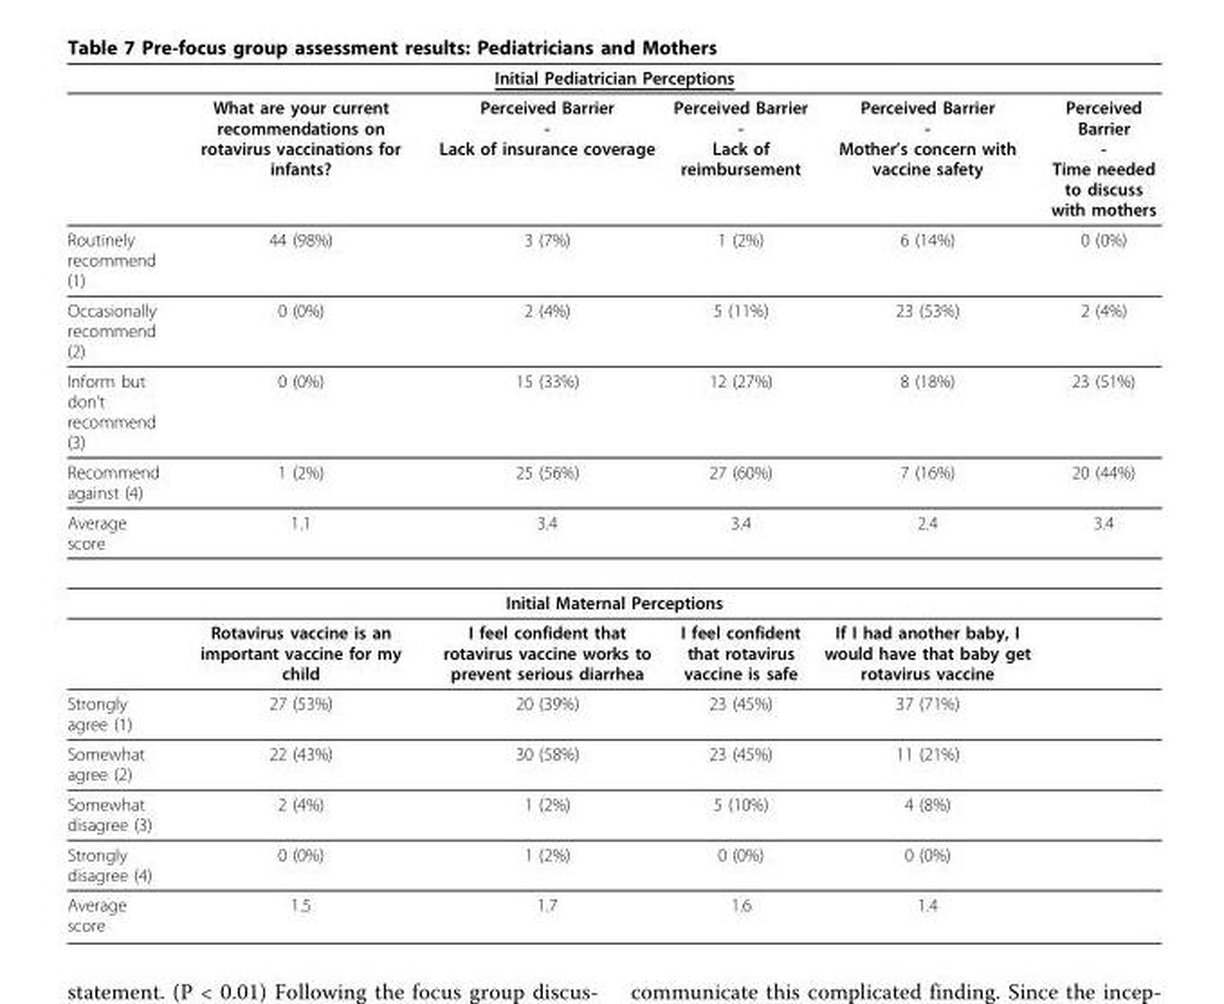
<table><thead><tr><td colspan="6">Initial Pediatrician Perceptions</td></tr><tr><td></td><td>What are your current recommendations on rotavirus vaccinations for infants?</td><td>Perceived Barrier - Lack of insurance coverage</td><td>Perceived Barrier - Lack of reimbursement</td><td>Perceived Barrier - Mother’s concern with vaccine safety</td><td>Perceived Barrier - Time needed to discuss with mothers</td></tr></thead><tbody><tr><td>Routinely recommend (1)</td><td>44 (98%)</td><td>3 (7%)</td><td>1 (2%)</td><td>6 (14%)</td><td>0 (0%)</td></tr><tr><td>Occasionally recommend (2)</td><td>0 (0%)</td><td>2 (4%)</td><td>5 (11%)</td><td>23 (53%)</td><td>2 (4%)</td></tr><tr><td>Inform but don’t recommend (3)</td><td>0 (0%)</td><td>15 (33%)</td><td>12 (27%)</td><td>8 (18%)</td><td>23 (51%)</td></tr><tr><td>Recommend against (4)</td><td>1 (2%)</td><td>25 (56%)</td><td>27 (60%)</td><td>7 (16%)</td><td>20 (44%)</td></tr><tr><td>Average score</td><td>1.1</td><td>3.4</td><td>3.4</td><td>2.4</td><td>3.4</td></tr><tr><td colspan="6">Initial Maternal Perceptions</td></tr><tr><td></td><td>Rotavirus vaccine is an important vaccine for my child</td><td>I feel confident that rotavirus vaccine works to prevent serious diarrhea</td><td>I feel confident that rotavirus vaccine is safe</td><td>If I had another baby, I would have that baby get rotavirus vaccine</td><td></td></tr><tr><td>Strongly agree (1)</td><td>27 (53%)</td><td>20 (39%)</td><td>23 (45%)</td><td>37 (71%)</td><td></td></tr><tr><td>Somewhat agree (2)</td><td>22 (43%)</td><td>30 (58%)</td><td>23 (45%)</td><td>11 (21%)</td><td></td></tr><tr><td>Somewhat disagree (3)</td><td>2 (4%)</td><td>1 (2%)</td><td>5 (10%)</td><td>4 (8%)</td><td></td></tr><tr><td>Strongly disagree (4)</td><td>0 (0%)</td><td>1 (2%)</td><td>0 (0%)</td><td>0 (0%)</td><td></td></tr><tr><td>Average score</td><td>1.5</td><td>1.7</td><td>1.6</td><td>1.4</td><td></td></tr></tbody></table>